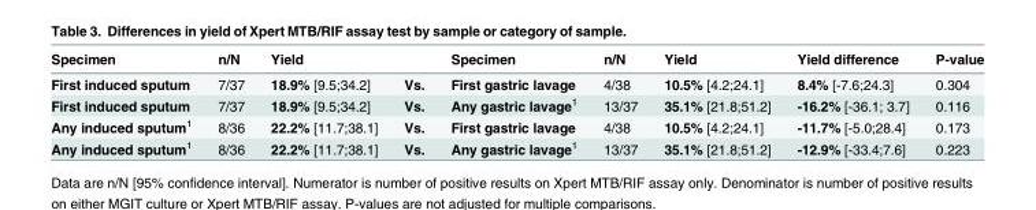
<table><thead><tr><td>Specimen</td><td>n/N</td><td>Yield</td><td></td><td>Specimen</td><td>n/N</td><td>Yield</td><td>Yield difference</td><td>P-value</td></tr></thead><tbody><tr><td>First induced sputum</td><td>7/37</td><td>18.9% [9.5;34.2]</td><td>Vs.</td><td>First gastric lavage</td><td>4/38</td><td>10.5% [4.2;24.1]</td><td>8.4% [-7.6;24.3]</td><td>0.304</td></tr><tr><td>First induced sputum</td><td>7/37</td><td>18.9% [9.5;34.2]</td><td>Vs.</td><td>Any gastric lavage<sup>1</sup></td><td>13/37</td><td>35.1% [21.8;51.2]</td><td>-16.2% [-36.1; 3.7]</td><td>0.116</td></tr><tr><td>Any induced sputum<sup>1</sup></td><td>8/36</td><td>22.2% [11.7;38.1]</td><td>Vs.</td><td>First gastric lavage</td><td>4/38</td><td>10.5% [4.2;24.1]</td><td>-11.7% [-5.0;28.4]</td><td>0.173</td></tr><tr><td>Any induced sputum<sup>1</sup></td><td>8/36</td><td>22.2% [11.7;38.1]</td><td>Vs.</td><td>Any gastric lavage<sup>1</sup></td><td>13/37</td><td>35.1% [21.8;51.2]</td><td>-12.9% [-33.4;7.6]</td><td>0.223</td></tr></tbody></table>